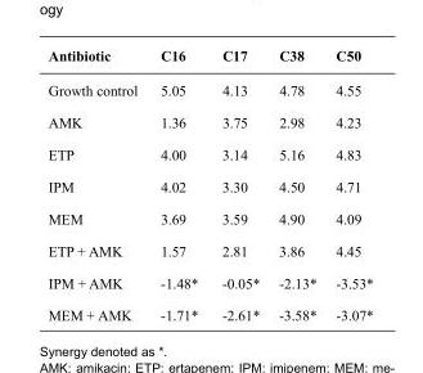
<table><thead><tr><td>Antibiotic</td><td>C16</td><td>C17</td><td>C38</td><td>C50</td></tr></thead><tbody><tr><td>Growth control</td><td>5.05</td><td>4.13</td><td>4.78</td><td>4.55</td></tr><tr><td>AMK</td><td>1.36</td><td>3.75</td><td>2.98</td><td>4.23</td></tr><tr><td>ETP</td><td>4.00</td><td>3.14</td><td>5.16</td><td>4.83</td></tr><tr><td>IPM</td><td>4.02</td><td>3.30</td><td>4.50</td><td>4.71</td></tr><tr><td>MEM</td><td>3.69</td><td>3.59</td><td>4.90</td><td>4.09</td></tr><tr><td>ETP + AMK</td><td>1.57</td><td>2.81</td><td>3.86</td><td>4.45</td></tr><tr><td>IPM + AMK</td><td>-1.48*</td><td>-0.05*</td><td>-2.13*</td><td>-3.53*</td></tr><tr><td>MEM + AMK</td><td>-1.71*</td><td>-2.61*</td><td>-3.58*</td><td>-3.07*</td></tr></tbody></table>